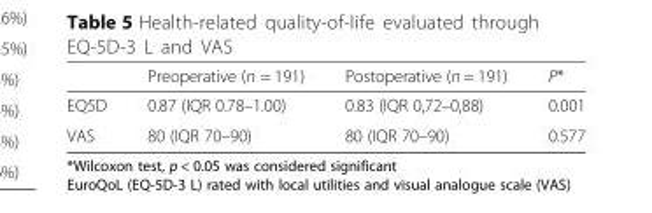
<table><thead><tr><td></td><td>Preoperative (n = 191)</td><td>Postoperative (n = 191)</td><td>P*</td></tr></thead><tbody><tr><td>EQ5D</td><td>0.87 (IQR 0.78–1.00)</td><td>0.83 (IQR 0,72–0,88)</td><td>0.001</td></tr><tr><td>VAS</td><td>80 (IQR 70–90)</td><td>80 (IQR 70–90)</td><td>0.577</td></tr></tbody></table>